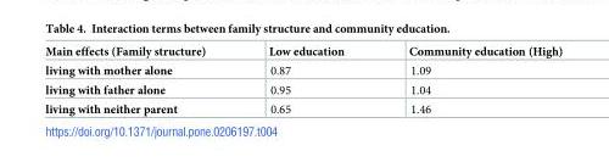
<table><thead><tr><td>Main effects (Family structure)</td><td>Low education</td><td>Community education (High)</td></tr></thead><tbody><tr><td>living with mother alone</td><td>0.87</td><td>1.09</td></tr><tr><td>living with father alone</td><td>0.95</td><td>1.04</td></tr><tr><td>living with neither parent</td><td>0.65</td><td>1.46</td></tr></tbody></table>